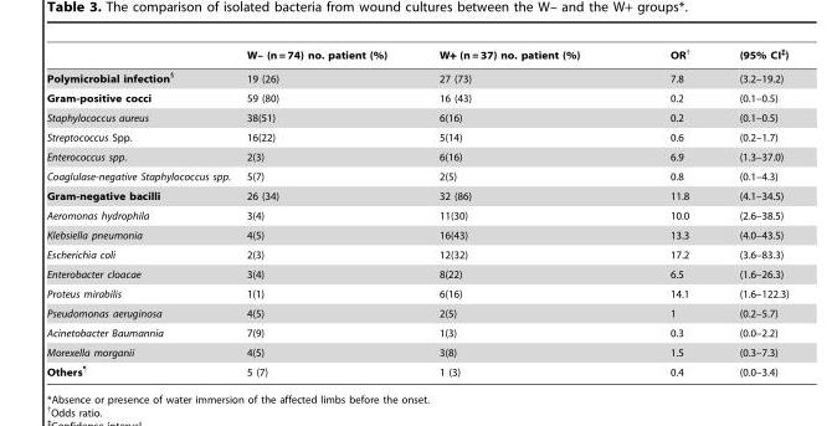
<table><thead><tr><td></td><td>W– (n = 74) no. patient (%)</td><td>W+ (n = 37) no. patient (%)</td><td>OR†</td><td>(95% CI‡)</td></tr></thead><tbody><tr><td>Polymicrobial infection§</td><td>19 (26)</td><td>27 (73)</td><td>7.8</td><td>(3.2–19.2)</td></tr><tr><td>Gram-positive cocci</td><td>59 (80)</td><td>16 (43)</td><td>0.2</td><td>(0.1–0.5)</td></tr><tr><td>Staphylococcus aureus</td><td>38(51)</td><td>6(16)</td><td>0.2</td><td>(0.1–0.5)</td></tr><tr><td>Streptococcus Spp.</td><td>16(22)</td><td>5(14)</td><td>0.6</td><td>(0.2–1.7)</td></tr><tr><td>Enterococcus spp.</td><td>2(3)</td><td>6(16)</td><td>6.9</td><td>(1.3–37.0)</td></tr><tr><td>Coaglulase-negative Staphylococcus spp.</td><td>5(7)</td><td>2(5)</td><td>0.8</td><td>(0.1–4.3)</td></tr><tr><td>Gram-negative bacilli</td><td>26 (34)</td><td>32 (86)</td><td>11.8</td><td>(4.1–34.5)</td></tr><tr><td>Aeromonas hydrophila</td><td>3(4)</td><td>11(30)</td><td>10.0</td><td>(2.6–38.5)</td></tr><tr><td>Klebsiella pneumonia</td><td>4(5)</td><td>16(43)</td><td>13.3</td><td>(4.0–43.5)</td></tr><tr><td>Escherichia coli</td><td>2(3)</td><td>12(32)</td><td>17.2</td><td>(3.6–83.3)</td></tr><tr><td>Enterobacter cloacae</td><td>3(4)</td><td>8(22)</td><td>6.5</td><td>(1.6–26.3)</td></tr><tr><td>Proteus mirabilis</td><td>1(1)</td><td>6(16)</td><td>14.1</td><td>(1.6–122.3)</td></tr><tr><td>Pseudomonas aeruginosa</td><td>4(5)</td><td>2(5)</td><td>1</td><td>(0.2–5.7)</td></tr><tr><td>Acinetobacter Baumannia</td><td>7(9)</td><td>1(3)</td><td>0.3</td><td>(0.0–2.2)</td></tr><tr><td>Morexella morganii</td><td>4(5)</td><td>3(8)</td><td>1.5</td><td>(0.3–7.3)</td></tr><tr><td>Others¶</td><td>5 (7)</td><td>1 (3)</td><td>0.4</td><td>(0.0–3.4)</td></tr></tbody></table>